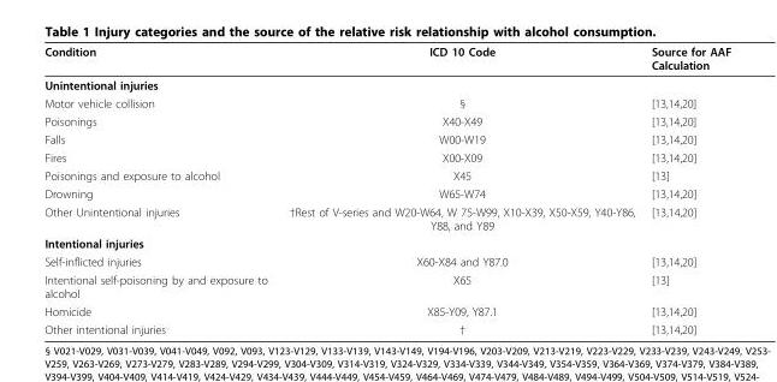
<table><thead><tr><td>Condition</td><td>ICD 10 Code</td><td>Source for AAF Calculation</td></tr></thead><tbody><tr><td colspan="3">Unintentional injuries</td></tr><tr><td>Motor vehicle collision</td><td>§</td><td>[13,14,20]</td></tr><tr><td>Poisonings</td><td>X40-X49</td><td>[13,14,20]</td></tr><tr><td>Falls</td><td>W00-W19</td><td>[13,14,20]</td></tr><tr><td>Fires</td><td>X00-X09</td><td>[13,14,20]</td></tr><tr><td>Poisonings and exposure to alcohol</td><td>X45</td><td>[13]</td></tr><tr><td>Drowning</td><td>W65-W74</td><td>[13,14,20]</td></tr><tr><td>Other Unintentional injuries</td><td>†Rest of V-series and W20-W64, W 75-W99, X10-X39, X50-X59, Y40-Y86, Y88, and Y89</td><td>[13,14,20]</td></tr><tr><td colspan="3">Intentional injuries</td></tr><tr><td>Self-inflicted injuries</td><td>X60-X84 and Y87.0</td><td>[13,14,20]</td></tr><tr><td>Intentional self-poisoning by and exposure to alcohol</td><td>X65</td><td>[13]</td></tr><tr><td>Homicide</td><td>X85-Y09, Y87.1</td><td>[13,14,20]</td></tr><tr><td>Other intentional injuries</td><td>†</td><td>[13,14,20]</td></tr></tbody></table>